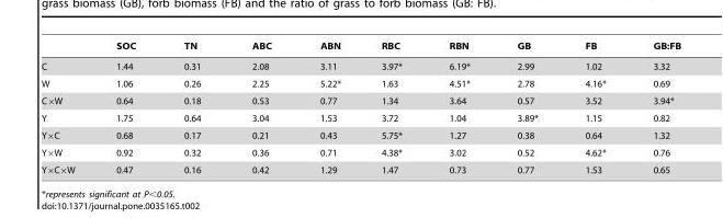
<table><thead><tr><td></td><td>SOC</td><td>TN</td><td>ABC</td><td>ABN</td><td>RBC</td><td>RBN</td><td>GB</td><td>FB</td><td>GB:FB</td></tr></thead><tbody><tr><td>C</td><td>1.44</td><td>0.31</td><td>2.08</td><td>3.11</td><td>3.97*</td><td>6.19*</td><td>2.99</td><td>1.02</td><td>3.32</td></tr><tr><td>W</td><td>1.06</td><td>0.26</td><td>2.25</td><td>5.22*</td><td>1.63</td><td>4.51*</td><td>2.78</td><td>4.16*</td><td>0.69</td></tr><tr><td>C×W</td><td>0.64</td><td>0.18</td><td>0.53</td><td>0.77</td><td>1.34</td><td>3.64</td><td>0.57</td><td>3.52</td><td>3.94*</td></tr><tr><td>Y</td><td>1.75</td><td>0.64</td><td>3.04</td><td>1.53</td><td>3.72</td><td>1.04</td><td>3.89*</td><td>1.15</td><td>0.82</td></tr><tr><td>Y×C</td><td>0.68</td><td>0.17</td><td>0.21</td><td>0.43</td><td>5.75*</td><td>1.27</td><td>0.38</td><td>0.64</td><td>1.32</td></tr><tr><td>Y×W</td><td>0.92</td><td>0.32</td><td>0.36</td><td>0.71</td><td>4.38*</td><td>3.02</td><td>0.52</td><td>4.62*</td><td>0.76</td></tr><tr><td>Y×C×W</td><td>0.47</td><td>0.16</td><td>0.42</td><td>1.29</td><td>1.47</td><td>0.73</td><td>0.77</td><td>1.53</td><td>0.65</td></tr></tbody></table>